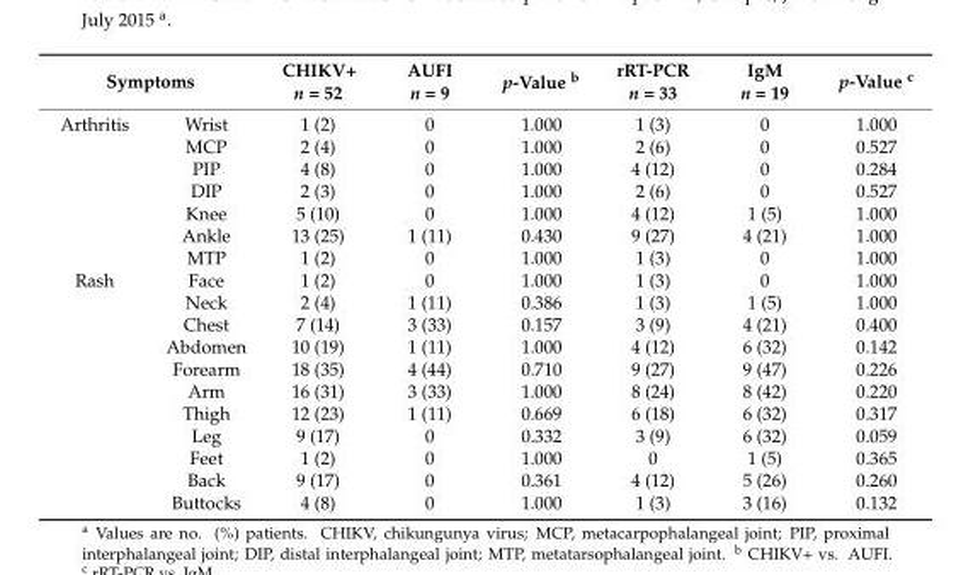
<table><thead><tr><td colspan="2">Symptoms</td><td rowspan="2">CHIKV+ n = 52 1 (2)</td><td rowspan="2">AUFI n = 9 0</td><td rowspan="2">p-Value <sup>b</sup> 1.000</td><td rowspan="2">rRT-PCR n = 33 1 (3)</td><td rowspan="2">IgM n = 19 0</td><td rowspan="2">p-Value <sup>c</sup> 1.000</td></tr><tr><td>Arthritis</td><td>Wrist</td></tr></thead><tbody><tr><td></td><td>MCP</td><td>2 (4)</td><td>0</td><td>1.000</td><td>2 (6)</td><td>0</td><td>0.527</td></tr><tr><td></td><td>PIP</td><td>4 (8)</td><td>0</td><td>1.000</td><td>4 (12)</td><td>0</td><td>0.284</td></tr><tr><td></td><td>DIP</td><td>2 (3)</td><td>0</td><td>1.000</td><td>2 (6)</td><td>0</td><td>0.527</td></tr><tr><td></td><td>Knee</td><td>5 (10)</td><td>0</td><td>1.000</td><td>4 (12)</td><td>1 (5)</td><td>1.000</td></tr><tr><td></td><td>Ankle</td><td>13 (25)</td><td>1 (11)</td><td>0.430</td><td>9 (27)</td><td>4 (21)</td><td>1.000</td></tr><tr><td></td><td>MTP</td><td>1 (2)</td><td>0</td><td>1.000</td><td>1 (3)</td><td>0</td><td>1.000</td></tr><tr><td rowspan="11">Rash</td><td>Face</td><td>1 (2)</td><td>0</td><td>1.000</td><td>1 (3)</td><td>0</td><td>1.000</td></tr><tr><td>Neck</td><td>2 (4)</td><td>1 (11)</td><td>0.386</td><td>1 (3)</td><td>1 (5)</td><td>1.000</td></tr><tr><td>Chest</td><td>7 (14)</td><td>3 (33)</td><td>0.157</td><td>3 (9)</td><td>4 (21)</td><td>0.400</td></tr><tr><td>Abdomen</td><td>10 (19)</td><td>1 (11)</td><td>1.000</td><td>4 (12)</td><td>6 (32)</td><td>0.142</td></tr><tr><td>Forearm</td><td>18 (35)</td><td>4 (44)</td><td>0.710</td><td>9 (27)</td><td>9 (47)</td><td>0.226</td></tr><tr><td>Arm</td><td>16 (31)</td><td>3 (33)</td><td>1.000</td><td>8 (24)</td><td>8 (42)</td><td>0.220</td></tr><tr><td>Thigh</td><td>12 (23)</td><td>1 (11)</td><td>0.669</td><td>6 (18)</td><td>6 (32)</td><td>0.317</td></tr><tr><td>Leg</td><td>9 (17)</td><td>0</td><td>0.332</td><td>3 (9)</td><td>6 (32)</td><td>0.059</td></tr><tr><td>Feet</td><td>1 (2)</td><td>0</td><td>1.000</td><td>0</td><td>1 (5)</td><td>0.365</td></tr><tr><td>Back</td><td>9 (17)</td><td>0</td><td>0.361</td><td>4 (12)</td><td>5 (26)</td><td>0.260</td></tr><tr><td>Buttocks</td><td>4 (8)</td><td>0</td><td>1.000</td><td>1 (3)</td><td>3 (16)</td><td>0.132</td></tr></tbody></table>